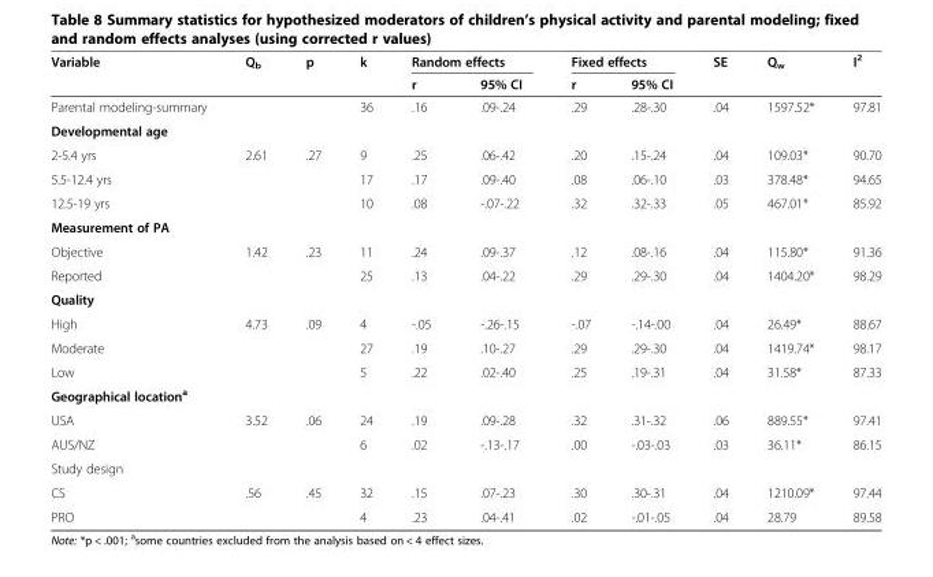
<table><thead><tr><td rowspan="2">Variable</td><td rowspan="2">Q<sub>b</sub></td><td rowspan="2">p</td><td rowspan="2">k</td><td colspan="2">Random effects</td><td colspan="2">Fixed effects</td><td rowspan="2">SE</td><td rowspan="2">Q<sub>w</sub></td><td rowspan="2">I<sup>2</sup></td></tr><tr><td>r</td><td>95% CI</td><td>r</td><td>95% CI</td></tr></thead><tbody><tr><td>Parental modeling-summary</td><td></td><td></td><td>36</td><td>.16</td><td>.09-.24</td><td>.29</td><td>.28-.30</td><td>.04</td><td>1597.52*</td><td>97.81</td></tr><tr><td colspan="11">Developmental age</td></tr><tr><td>2-5.4 yrs</td><td>2.61</td><td>.27</td><td>9</td><td>.25</td><td>.06-.42</td><td>.20</td><td>.15-.24</td><td>.04</td><td>109.03*</td><td>90.70</td></tr><tr><td>5.5-12.4 yrs</td><td></td><td></td><td>17</td><td>.17</td><td>.09-.40</td><td>.08</td><td>.06-.10</td><td>.03</td><td>378.48*</td><td>94.65</td></tr><tr><td>12.5-19 yrs</td><td></td><td></td><td>10</td><td>.08</td><td>-.07-.22</td><td>.32</td><td>.32-.33</td><td>.05</td><td>467.01*</td><td>85.92</td></tr><tr><td colspan="11">Measurement of PA</td></tr><tr><td>Objective</td><td>1.42</td><td>.23</td><td>11</td><td>.24</td><td>.09-.37</td><td>.12</td><td>.08-.16</td><td>.04</td><td>115.80*</td><td>91.36</td></tr><tr><td>Reported</td><td></td><td></td><td>25</td><td>.13</td><td>.04-.22</td><td>.29</td><td>.29-.30</td><td>.04</td><td>1404.20*</td><td>98.29</td></tr><tr><td colspan="11">Quality</td></tr><tr><td>High</td><td>4.73</td><td>.09</td><td>4</td><td>-.05</td><td>-.26-.15</td><td>-.07</td><td>-.14-.00</td><td>.04</td><td>26.49*</td><td>88.67</td></tr><tr><td>Moderate</td><td></td><td></td><td>27</td><td>.19</td><td>.10-.27</td><td>.29</td><td>.29-.30</td><td>.04</td><td>1419.74*</td><td>98.17</td></tr><tr><td>Low</td><td></td><td></td><td>5</td><td>.22</td><td>.02-.40</td><td>.25</td><td>.19-.31</td><td>.04</td><td>31.58*</td><td>87.33</td></tr><tr><td colspan="11">Geographical location<sup>a</sup></td></tr><tr><td>USA</td><td>3.52</td><td>.06</td><td>24</td><td>.19</td><td>.09-.28</td><td>.32</td><td>.31-.32</td><td>.06</td><td>889.55*</td><td>97.41</td></tr><tr><td>AUS/NZ</td><td></td><td></td><td>6</td><td>.02</td><td>-.13-.17</td><td>.00</td><td>-.03-.03</td><td>.03</td><td>36.11*</td><td>86.15</td></tr><tr><td colspan="11">Study design</td></tr><tr><td>CS</td><td>.56</td><td>.45</td><td>32</td><td>.15</td><td>.07-.23</td><td>.30</td><td>.30-.31</td><td>.04</td><td>1210.09*</td><td>97.44</td></tr><tr><td>PRO</td><td></td><td></td><td>4</td><td>.23</td><td>.04-.41</td><td>.02</td><td>-.01-.05</td><td>.04</td><td>28.79</td><td>89.58</td></tr></tbody></table>